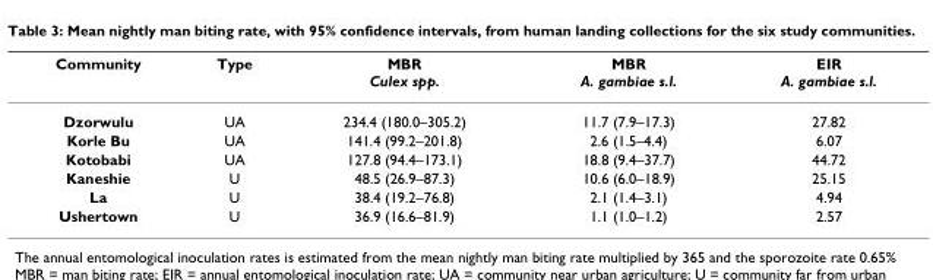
<table><thead><tr><td>Community</td><td>Type</td><td>MBR Culex spp.</td><td>MBR A. gambiae s.l.</td><td>EIR A. gambiae s.l.</td></tr></thead><tbody><tr><td>Dzorwulu</td><td>UA</td><td>234.4 (180.0–305.2)</td><td>11.7 (7.9–17.3)</td><td>27.82</td></tr><tr><td>Korle Bu</td><td>UA</td><td>141.4 (99.2–201.8)</td><td>2.6 (1.5–4.4)</td><td>6.07</td></tr><tr><td>Kotobabi</td><td>UA</td><td>127.8 (94.4–173.1)</td><td>18.8 (9.4–37.7)</td><td>44.72</td></tr><tr><td>Kaneshie</td><td>U</td><td>48.5 (26.9–87.3)</td><td>10.6 (6.0–18.9)</td><td>25.15</td></tr><tr><td>La</td><td>U</td><td>38.4 (19.2–76.8)</td><td>2.1 (1.4–3.1)</td><td>4.94</td></tr><tr><td>Ushertown</td><td>U</td><td>36.9 (16.6–81.9)</td><td>1.1 (1.0–1.2)</td><td>2.57</td></tr></tbody></table>